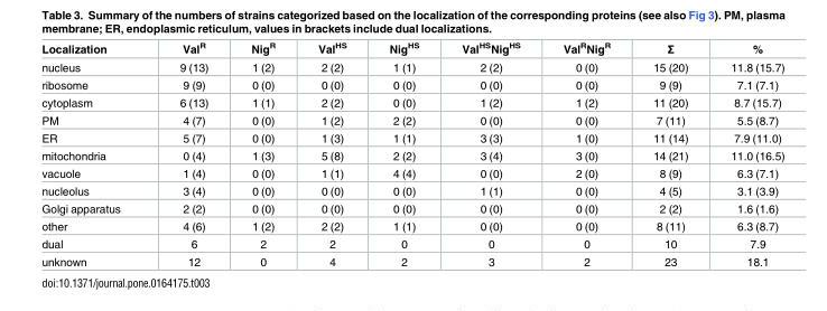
<table><thead><tr><td>Localization</td><td>Val<sup>R</sup></td><td>Nig<sup>R</sup></td><td>Val<sup>HS</sup></td><td>Nig<sup>HS</sup></td><td>Val<sup>HS</sup>Nig<sup>HS</sup></td><td>Val<sup>R</sup>Nig<sup>R</sup></td><td>Σ</td><td>%</td></tr></thead><tbody><tr><td>nucleus</td><td>9 (13)</td><td>1 (2)</td><td>2 (2)</td><td>1 (1)</td><td>2 (2)</td><td>0 (0)</td><td>15 (20)</td><td>11.8 (15.7)</td></tr><tr><td>ribosome</td><td>9 (9)</td><td>0 (0)</td><td>0 (0)</td><td>0 (0)</td><td>0 (0)</td><td>0 (0)</td><td>9 (9)</td><td>7.1 (7.1)</td></tr><tr><td>cytoplasm</td><td>6 (13)</td><td>1 (1)</td><td>2 (2)</td><td>0 (0)</td><td>1 (2)</td><td>1 (2)</td><td>11 (20)</td><td>8.7 (15.7)</td></tr><tr><td>PM</td><td>4 (7)</td><td>0 (0)</td><td>1 (2)</td><td>2 (2)</td><td>0 (0)</td><td>0 (0)</td><td>7 (11)</td><td>5.5 (8.7)</td></tr><tr><td>ER</td><td>5 (7)</td><td>0 (0)</td><td>1 (3)</td><td>1 (1)</td><td>3 (3)</td><td>1 (0)</td><td>11 (14)</td><td>7.9 (11.0)</td></tr><tr><td>mitochondria</td><td>0 (4)</td><td>1 (3)</td><td>5 (8)</td><td>2 (2)</td><td>3 (4)</td><td>3 (0)</td><td>14 (21)</td><td>11.0 (16.5)</td></tr><tr><td>vacuole</td><td>1 (4)</td><td>0 (0)</td><td>1 (1)</td><td>4 (4)</td><td>0 (0)</td><td>2 (0)</td><td>8 (9)</td><td>6.3 (7.1)</td></tr><tr><td>nucleolus</td><td>3 (4)</td><td>0 (0)</td><td>0 (0)</td><td>0 (0)</td><td>1 (1)</td><td>0 (0)</td><td>4 (5)</td><td>3.1 (3.9)</td></tr><tr><td>Golgi apparatus</td><td>2 (2)</td><td>0 (0)</td><td>0 (0)</td><td>0 (0)</td><td>0 (0)</td><td>0 (0)</td><td>2 (2)</td><td>1.6 (1.6)</td></tr><tr><td>other</td><td>4 (6)</td><td>1 (2)</td><td>2 (2)</td><td>1 (1)</td><td>0 (0)</td><td>0 (0)</td><td>8 (11)</td><td>6.3 (8.7)</td></tr><tr><td>dual</td><td>6</td><td>2</td><td>2</td><td>0</td><td>0</td><td>0</td><td>10</td><td>7.9</td></tr><tr><td>unknown</td><td>12</td><td>0</td><td>4</td><td>2</td><td>3</td><td>2</td><td>23</td><td>18.1</td></tr></tbody></table>